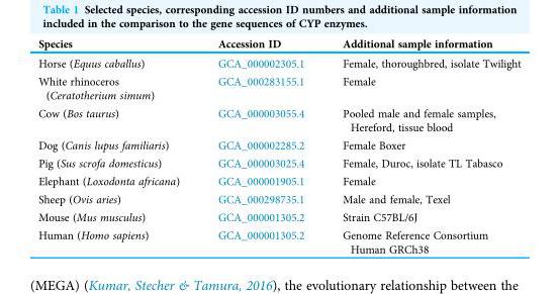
<table><thead><tr><td>Species</td><td>Accession ID</td><td>Additional sample information</td></tr></thead><tbody><tr><td>Horse (Equus caballus)</td><td>GCA_000002305.1</td><td>Female, thoroughbred, isolate Twilight</td></tr><tr><td>White rhinoceros (Ceratotherium simum)</td><td>GCA_000283155.1</td><td>Female</td></tr><tr><td>Cow (Bos taurus)</td><td>GCA_000003055.4</td><td>Pooled male and female samples, Hereford, tissue blood</td></tr><tr><td>Dog (Canis lupus familiaris)</td><td>GCA_000002285.2</td><td>Female Boxer</td></tr><tr><td>Pig (Sus scrofa domesticus)</td><td>GCA_000003025.4</td><td>Female, Duroc, isolate TL Tabasco</td></tr><tr><td>Elephant (Loxodonta africana)</td><td>GCA_000001905.1</td><td>Female</td></tr><tr><td>Sheep (Ovis aries)</td><td>GCA_000298735.1</td><td>Male and female, Texel</td></tr><tr><td>Mouse (Mus musculus)</td><td>GCA_000001305.2</td><td>Strain C57BL/6J</td></tr><tr><td>Human (Homo sapiens)</td><td>GCA_000001305.2</td><td>Genome Reference Consortium Human GRCh38</td></tr></tbody></table>